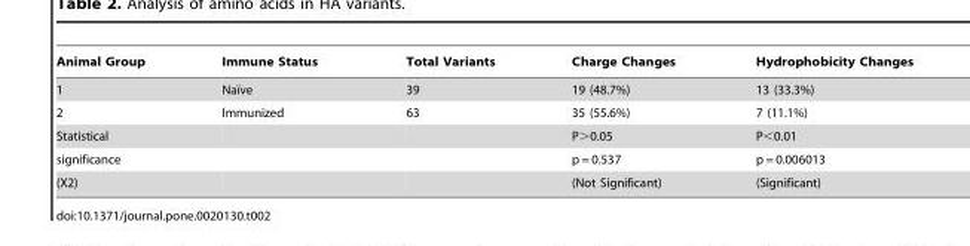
<table><thead><tr><td>Animal Group</td><td>Immune Status</td><td>Total Variants</td><td>Charge Changes</td><td>Hydrophobicity Changes</td></tr></thead><tbody><tr><td>1</td><td>Naı¨ve</td><td>39</td><td>19 (48.7%)</td><td>13 (33.3%)</td></tr><tr><td>2</td><td>Immunized</td><td>63</td><td>35 (55.6%)</td><td>7 (11.1%)</td></tr><tr><td>Statistical</td><td></td><td></td><td>P&gt;0.05</td><td>P&lt;0.01</td></tr><tr><td>significance</td><td></td><td></td><td>p = 0.537</td><td>p = 0.006013</td></tr><tr><td>(X2)</td><td></td><td></td><td>(Not Significant)</td><td>(Significant)</td></tr></tbody></table>